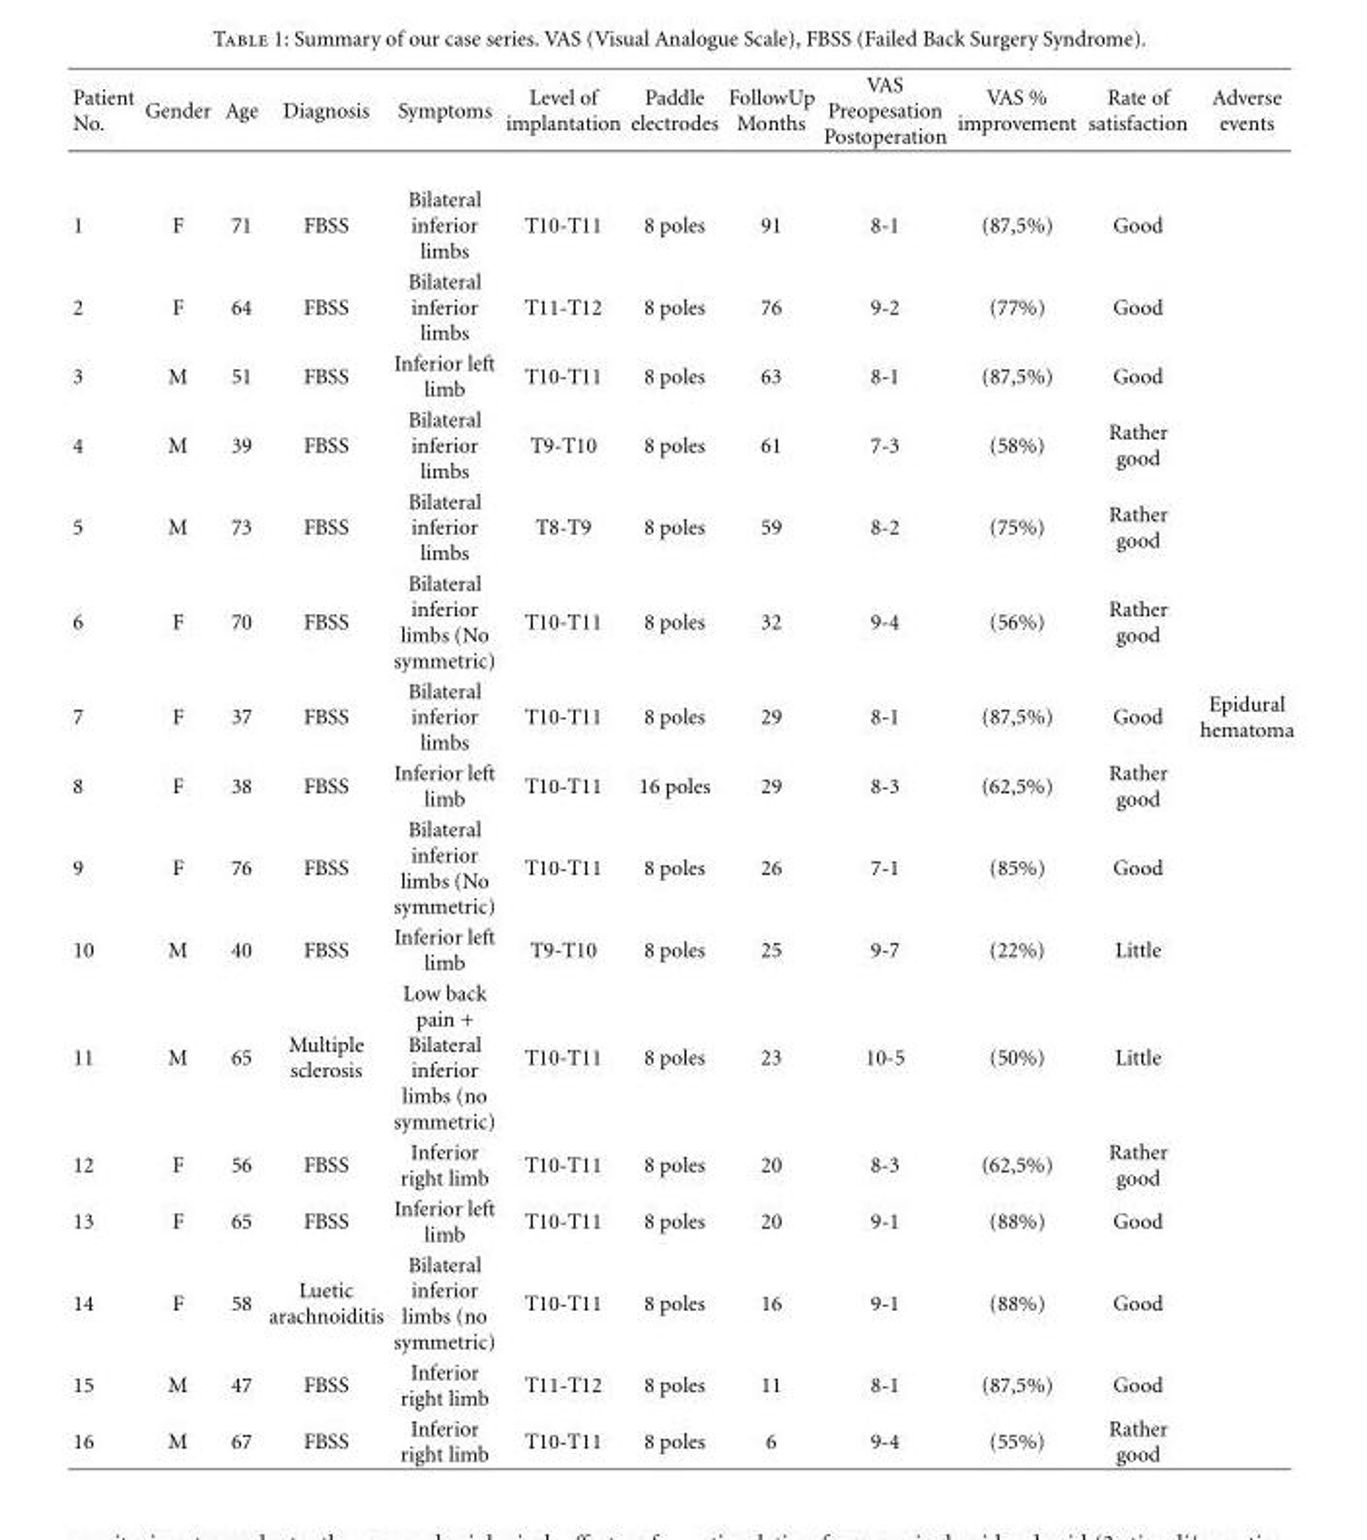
<table><thead><tr><td>Patient No.</td><td>Gender</td><td>Age</td><td>Diagnosis</td><td>Symptoms</td><td>Level of implantation</td><td>Paddle electrodes</td><td>FollowUp Months</td><td>VAS Preopesation Postoperation</td><td>VAS % improvement</td><td>Rate of satisfaction</td><td>Adverse events</td></tr></thead><tbody><tr><td>1</td><td>F</td><td>71</td><td>FBSS</td><td>Bilateral inferior limbs</td><td>T10-T11</td><td>8 poles</td><td>91</td><td>8-1</td><td>(87,5%)</td><td>Good</td><td></td></tr><tr><td>2</td><td>F</td><td>64</td><td>FBSS</td><td>Bilateral inferior limbs</td><td>T11-T12</td><td>8 poles</td><td>76</td><td>9-2</td><td>(77%)</td><td>Good</td><td></td></tr><tr><td>3</td><td>M</td><td>51</td><td>FBSS</td><td>Inferior left limb</td><td>T10-T11</td><td>8 poles</td><td>63</td><td>8-1</td><td>(87,5%)</td><td>Good</td><td></td></tr><tr><td>4</td><td>M</td><td>39</td><td>FBSS</td><td>Bilateral inferior limbs</td><td>T9-T10</td><td>8 poles</td><td>61</td><td>7-3</td><td>(58%)</td><td>Rather good</td><td></td></tr><tr><td>5</td><td>M</td><td>73</td><td>FBSS</td><td>Bilateral inferior limbs</td><td>T8-T9</td><td>8 poles</td><td>59</td><td>8-2</td><td>(75%)</td><td>Rather good</td><td></td></tr><tr><td>6</td><td>F</td><td>70</td><td>FBSS</td><td>Bilateral inferior limbs (No symmetric)</td><td>T10-T11</td><td>8 poles</td><td>32</td><td>9-4</td><td>(56%)</td><td>Rather good</td><td></td></tr><tr><td>7</td><td>F</td><td>37</td><td>FBSS</td><td>Bilateral inferior limbs</td><td>T10-T11</td><td>8 poles</td><td>29</td><td>8-1</td><td>(87,5%)</td><td>Good</td><td>Epidural hematoma</td></tr><tr><td>8</td><td>F</td><td>38</td><td>FBSS</td><td>Inferior left limb</td><td>T10-T11</td><td>16 poles</td><td>29</td><td>8-3</td><td>(62,5%)</td><td>Rather good</td><td></td></tr><tr><td>9</td><td>F</td><td>76</td><td>FBSS</td><td>Bilateral inferior limbs (No symmetric)</td><td>T10-T11</td><td>8 poles</td><td>26</td><td>7-1</td><td>(85%)</td><td>Good</td><td></td></tr><tr><td>10</td><td>M</td><td>40</td><td>FBSS</td><td>Inferior left limb</td><td>T9-T10</td><td>8 poles</td><td>25</td><td>9-7</td><td>(22%)</td><td>Little</td><td></td></tr><tr><td>11</td><td>M</td><td>65</td><td>Multiple sclerosis</td><td>Low back pain + Bilateral inferior limbs (no symmetric)</td><td>T10-T11</td><td>8 poles</td><td>23</td><td>10-5</td><td>(50%)</td><td>Little</td><td></td></tr><tr><td>12</td><td>F</td><td>56</td><td>FBSS</td><td>Inferior right limb</td><td>T10-T11</td><td>8 poles</td><td>20</td><td>8-3</td><td>(62,5%)</td><td>Rather good</td><td></td></tr><tr><td>13</td><td>F</td><td>65</td><td>FBSS</td><td>Inferior left limb</td><td>T10-T11</td><td>8 poles</td><td>20</td><td>9-1</td><td>(88%)</td><td>Good</td><td></td></tr><tr><td>14</td><td>F</td><td>58</td><td>Luetic arachnoiditis</td><td>Bilateral inferior limbs (no symmetric)</td><td>T10-T11</td><td>8 poles</td><td>16</td><td>9-1</td><td>(88%)</td><td>Good</td><td></td></tr><tr><td>15</td><td>M</td><td>47</td><td>FBSS</td><td>Inferior right limb</td><td>T11-T12</td><td>8 poles</td><td>11</td><td>8-1</td><td>(87,5%)</td><td>Good</td><td></td></tr><tr><td>16</td><td>M</td><td>67</td><td>FBSS</td><td>Inferior right limb</td><td>T10-T11</td><td>8 poles</td><td>6</td><td>9-4</td><td>(55%)</td><td>Rather good</td><td></td></tr></tbody></table>